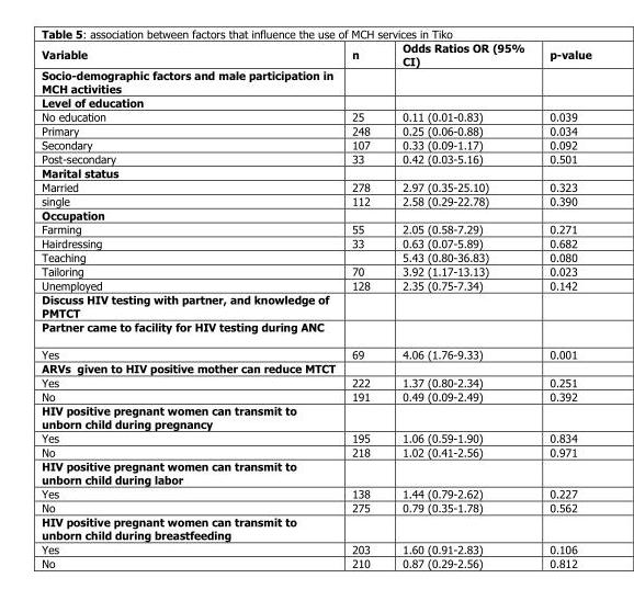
<table><thead><tr><td>Variable</td><td>n</td><td>Odds Ratios OR (95% CI)</td><td>p-value</td></tr></thead><tbody><tr><td colspan="4">Socio-demographic factors and male participation in MCH activities</td></tr><tr><td colspan="4">Level of education</td></tr><tr><td>No education</td><td>25</td><td>0.11 (0.01-0.83)</td><td>0.039</td></tr><tr><td>Primary</td><td>248</td><td>0.25 (0.06-0.88)</td><td>0.034</td></tr><tr><td>Secondary</td><td>107</td><td>0.33 (0.09-1.17)</td><td>0.092</td></tr><tr><td>Post-secondary</td><td>33</td><td>0.42 (0.03-5.16)</td><td>0.501</td></tr><tr><td colspan="4">Marital status</td></tr><tr><td>Married</td><td>278</td><td>2.97 (0.35-25.10)</td><td>0.323</td></tr><tr><td>single</td><td>112</td><td>2.58 (0.29-22.78)</td><td>0.390</td></tr><tr><td colspan="4">Occupation</td></tr><tr><td>Farming</td><td>55</td><td>2.05 (0.58-7.29)</td><td>0.271</td></tr><tr><td>Hairdressing</td><td>33</td><td>0.63 (0.07-5.89)</td><td>0.682</td></tr><tr><td>Teaching</td><td></td><td>5.43 (0.80-36.83)</td><td>0.080</td></tr><tr><td>Tailoring</td><td>70</td><td>3.92 (1.17-13.13)</td><td>0.023</td></tr><tr><td>Unemployed</td><td>128</td><td>2.35 (0.75-7.34)</td><td>0.142</td></tr><tr><td colspan="4">Discuss HIV testing with partner, and knowledge of PMTCT Partner came to facility for HIV testing during ANC</td></tr><tr><td>Yes</td><td>69</td><td>4.06 (1.76-9.33)</td><td>0.001</td></tr><tr><td colspan="4">ARVs given to HIV positive mother can reduce MTCT</td></tr><tr><td>Yes</td><td>222</td><td>1.37 (0.80-2.34)</td><td>0.251</td></tr><tr><td>No</td><td>191</td><td>0.49 (0.09-2.49)</td><td>0.392</td></tr><tr><td colspan="4">HIV positive pregnant women can transmit to unborn child during pregnancy</td></tr><tr><td>Yes</td><td>195</td><td>1.06 (0.59-1.90)</td><td>0.834</td></tr><tr><td>No</td><td>218</td><td>1.02 (0.41-2.56)</td><td>0.971</td></tr><tr><td colspan="4">HIV positive pregnant women can transmit to unborn child during labor</td></tr><tr><td>Yes</td><td>138</td><td>1.44 (0.79-2.62)</td><td>0.227</td></tr><tr><td>No</td><td>275</td><td>0.79 (0.35-1.78)</td><td>0.562</td></tr><tr><td colspan="4">HIV positive pregnant women can transmit to unborn child during breastfeeding</td></tr><tr><td>Yes</td><td>203</td><td>1.60 (0.91-2.83)</td><td>0.106</td></tr><tr><td>No</td><td>210</td><td>0.87 (0.29-2.56)</td><td>0.812</td></tr></tbody></table>